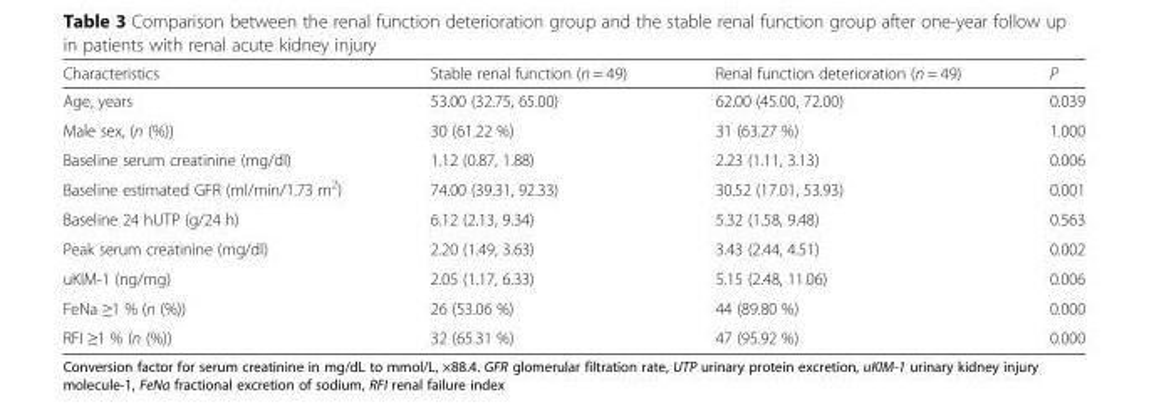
<table><thead><tr><td>Characteristics</td><td>Stable renal function (n = 49)</td><td>Renal function deterioration (n = 49)</td><td>P</td></tr></thead><tbody><tr><td>Age, years</td><td>53.00 (32.75, 65.00)</td><td>62.00 (45.00, 72.00)</td><td>0.039</td></tr><tr><td>Male sex, (n (%))</td><td>30 (61.22 %)</td><td>31 (63.27 %)</td><td>1.000</td></tr><tr><td>Baseline serum creatinine (mg/dl)</td><td>1.12 (0.87, 1.88)</td><td>2.23 (1.11, 3.13)</td><td>0.006</td></tr><tr><td>Baseline estimated GFR (ml/min/1.73 m<sup>2</sup>)</td><td>74.00 (39.31, 92.33)</td><td>30.52 (17.01, 53.93)</td><td>0.001</td></tr><tr><td>Baseline 24 hUTP (g/24 h)</td><td>6.12 (2.13, 9.34)</td><td>5.32 (1.58, 9.48)</td><td>0.563</td></tr><tr><td>Peak serum creatinine (mg/dl)</td><td>2.20 (1.49, 3.63)</td><td>3.43 (2.44, 4.51)</td><td>0.002</td></tr><tr><td>uKIM-1 (ng/mg)</td><td>2.05 (1.17, 6.33)</td><td>5.15 (2.48, 11.06)</td><td>0.006</td></tr><tr><td>FeNa ≥1 % (n (%))</td><td>26 (53.06 %)</td><td>44 (89.80 %)</td><td>0.000</td></tr><tr><td>RFI ≥1 % (n (%))</td><td>32 (65.31 %)</td><td>47 (95.92 %)</td><td>0.000</td></tr></tbody></table>